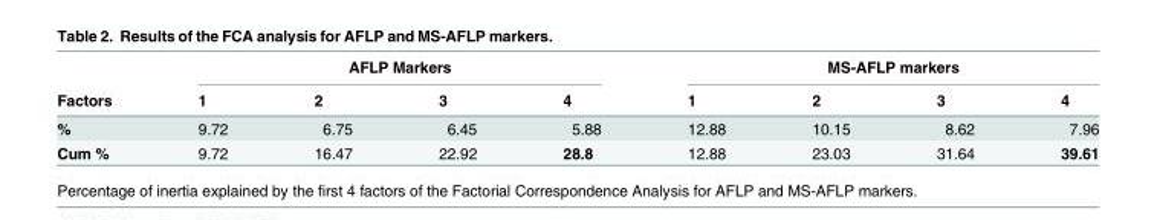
<table><thead><tr><td rowspan="2">Factors</td><td colspan="4">AFLP Markers</td><td colspan="4">MS-AFLP markers</td></tr><tr><td>1</td><td>2</td><td>3</td><td>4</td><td>1</td><td>2</td><td>3</td><td>4</td></tr></thead><tbody><tr><td>%</td><td>9.72</td><td>6.75</td><td>6.45</td><td>5.88</td><td>12.88</td><td>10.15</td><td>8.62</td><td>7.96</td></tr><tr><td>Cum %</td><td>9.72</td><td>16.47</td><td>22.92</td><td>28.8</td><td>12.88</td><td>23.03</td><td>31.64</td><td>39.61</td></tr></tbody></table>